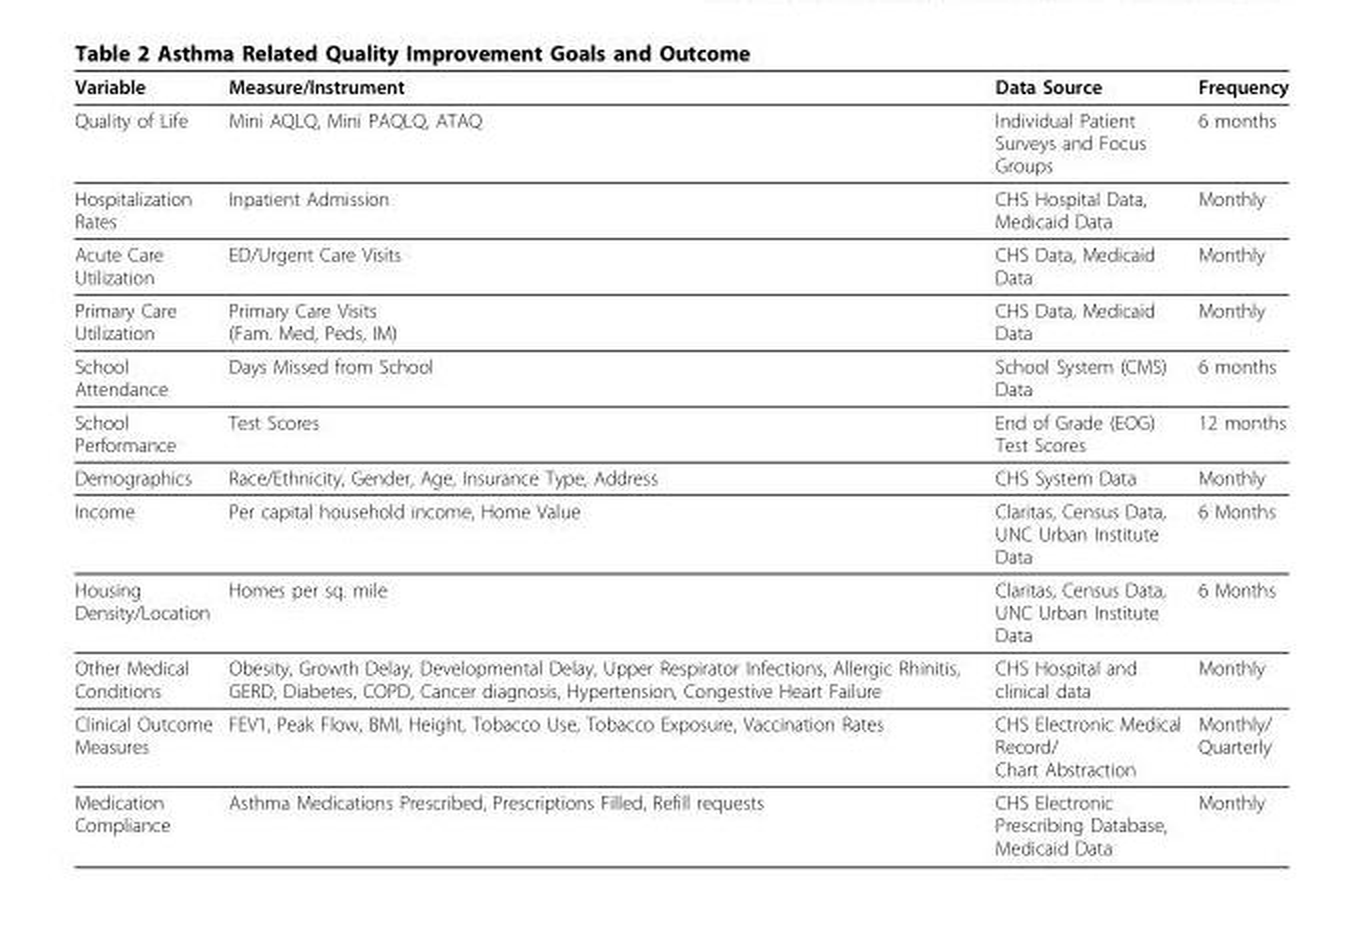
<table><thead><tr><td>Variable</td><td>Measure/Instrument</td><td>Data Source</td><td>Frequency</td></tr></thead><tbody><tr><td>Quality of Life</td><td>Mini AQLQ, Mini PAQLQ, ATAQ</td><td>Individual Patient Surveys and Focus Groups</td><td>6 months</td></tr><tr><td>Hospitalization Rates</td><td>Inpatient Admission</td><td>CHS Hospital Data, Medicaid Data</td><td>Monthly</td></tr><tr><td>Acute Care Utilization</td><td>ED/Urgent Care Visits</td><td>CHS Data, Medicaid Data</td><td>Monthly</td></tr><tr><td>Primary Care Utilization</td><td>Primary Care Visits (Fam. Med, Peds, IM)</td><td>CHS Data, Medicaid Data</td><td>Monthly</td></tr><tr><td>School Attendance</td><td>Days Missed from School</td><td>School System (CMS) Data</td><td>6 months</td></tr><tr><td>School Performance</td><td>Test Scores</td><td>End of Grade (EOG) Test Scores</td><td>12 months</td></tr><tr><td>Demographics</td><td>Race/Ethnicity, Gender, Age, Insurance Type, Address</td><td>CHS System Data</td><td>Monthly</td></tr><tr><td>Income</td><td>Per capital household income, Home Value</td><td>Claritas, Census Data, UNC Urban Institute Data</td><td>6 Months</td></tr><tr><td>Housing Density/Location</td><td>Homes per sq. mile</td><td>Claritas, Census Data, UNC Urban Institute Data</td><td>6 Months</td></tr><tr><td>Other Medical Conditions</td><td>Obesity, Growth Delay, Developmental Delay, Upper Respirator Infections, Allergic Rhinitis, GERD, Diabetes, COPD, Cancer diagnosis, Hypertension, Congestive Heart Failure</td><td>CHS Hospital and clinical data</td><td>Monthly</td></tr><tr><td>Clinical Outcome Measures</td><td>FEV1, Peak Flow, BMI, Height, Tobacco Use, Tobacco Exposure, Vaccination Rates</td><td>CHS Electronic Medical Record/ Chart Abstraction</td><td>Monthly/ Quarterly</td></tr><tr><td>Medication Compliance</td><td>Asthma Medications Prescribed, Prescriptions Filled, Refill requests</td><td>CHS Electronic Prescribing Database, Medicaid Data</td><td>Monthly</td></tr></tbody></table>